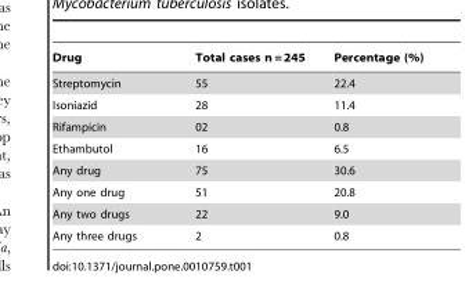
<table><thead><tr><td>Drug</td><td>Total cases n = 245</td><td>Percentage (%)</td></tr></thead><tbody><tr><td>Streptomycin</td><td>55</td><td>22.4</td></tr><tr><td>Isoniazid</td><td>28</td><td>11.4</td></tr><tr><td>Rifampicin</td><td>02</td><td>0.8</td></tr><tr><td>Ethambutol</td><td>16</td><td>6.5</td></tr><tr><td>Any drug</td><td>75</td><td>30.6</td></tr><tr><td>Any one drug</td><td>51</td><td>20.8</td></tr><tr><td>Any two drugs</td><td>22</td><td>9.0</td></tr><tr><td>Any three drugs</td><td>2</td><td>0.8</td></tr></tbody></table>